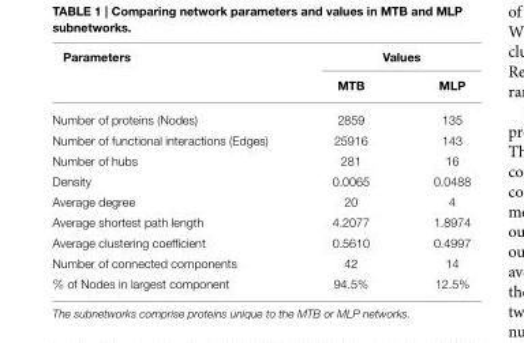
<table><thead><tr><td rowspan="2">Parameters</td><td colspan="2">Values</td></tr><tr><td>MTB</td><td>MLP</td></tr></thead><tbody><tr><td>Number of proteins (Nodes)</td><td>2859</td><td>135</td></tr><tr><td>Number of functional interactions (Edges)</td><td>25916</td><td>143</td></tr><tr><td>Number of hubs</td><td>281</td><td>16</td></tr><tr><td>Density</td><td>0.0065</td><td>0.0488</td></tr><tr><td>Average degree</td><td>20</td><td>4</td></tr><tr><td>Average shortest path length</td><td>4.2077</td><td>1.8974</td></tr><tr><td>Average clustering coefficient</td><td>0.5610</td><td>0.4997</td></tr><tr><td>Number of connected components</td><td>42</td><td>14</td></tr><tr><td>% of Nodes in largest component</td><td>94.5%</td><td>12.5%</td></tr></tbody></table>